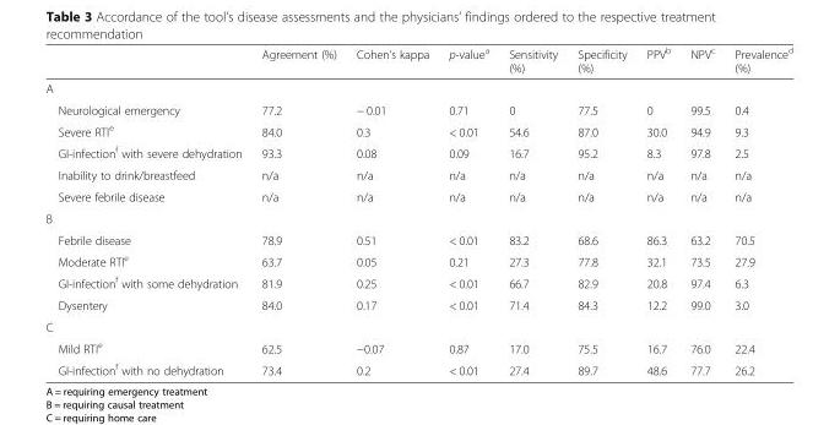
<table><thead><tr><td></td><td>Agreement (%)</td><td>Cohen’s kappa</td><td>p-value<sup>a</sup></td><td>Sensitivity (%)</td><td>Specificity (%)</td><td>PPV<sup>b</sup></td><td>NPV<sup>c</sup></td><td>Prevalence<sup>d</sup> (%)</td></tr></thead><tbody><tr><td colspan="9">A</td></tr><tr><td>Neurological emergency</td><td>77.2</td><td>− 0.01</td><td>0.71</td><td>0</td><td>77.5</td><td>0</td><td>99.5</td><td>0.4</td></tr><tr><td>Severe RTI<sup>e</sup></td><td>84.0</td><td>0.3</td><td>&lt; 0.01</td><td>54.6</td><td>87.0</td><td>30.0</td><td>94.9</td><td>9.3</td></tr><tr><td>GI-infection<sup>f</sup> with severe dehydration</td><td>93.3</td><td>0.08</td><td>0.09</td><td>16.7</td><td>95.2</td><td>8.3</td><td>97.8</td><td>2.5</td></tr><tr><td>Inability to drink/breastfeed</td><td>n/a</td><td>n/a</td><td>n/a</td><td>n/a</td><td>n/a</td><td>n/a</td><td>n/a</td><td>n/a</td></tr><tr><td>Severe febrile disease</td><td>n/a</td><td>n/a</td><td>n/a</td><td>n/a</td><td>n/a</td><td>n/a</td><td>n/a</td><td>n/a</td></tr><tr><td colspan="9">B</td></tr><tr><td>Febrile disease</td><td>78.9</td><td>0.51</td><td>&lt; 0.01</td><td>83.2</td><td>68.6</td><td>86.3</td><td>63.2</td><td>70.5</td></tr><tr><td>Moderate RTI<sup>e</sup></td><td>63.7</td><td>0.05</td><td>0.21</td><td>27.3</td><td>77.8</td><td>32.1</td><td>73.5</td><td>27.9</td></tr><tr><td>GI-infection<sup>f</sup> with some dehydration</td><td>81.9</td><td>0.25</td><td>&lt; 0.01</td><td>66.7</td><td>82.9</td><td>20.8</td><td>97.4</td><td>6.3</td></tr><tr><td>Dysentery</td><td>84.0</td><td>0.17</td><td>&lt; 0.01</td><td>71.4</td><td>84.3</td><td>12.2</td><td>99.0</td><td>3.0</td></tr><tr><td colspan="9">C</td></tr><tr><td>Mild RTI<sup>e</sup></td><td>62.5</td><td>−0.07</td><td>0.87</td><td>17.0</td><td>75.5</td><td>16.7</td><td>76.0</td><td>22.4</td></tr><tr><td>GI-infection<sup>f</sup> with no dehydration</td><td>73.4</td><td>0.2</td><td>&lt; 0.01</td><td>27.4</td><td>89.7</td><td>48.6</td><td>77.7</td><td>26.2</td></tr></tbody></table>